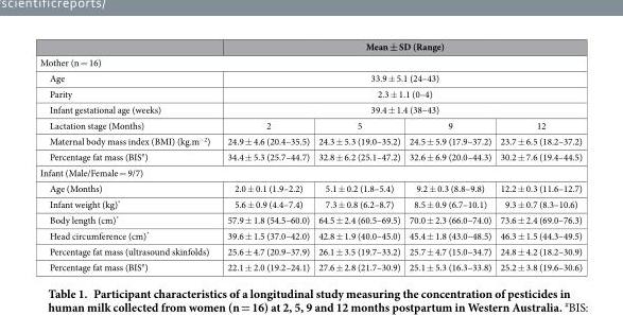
<table><thead><tr><td></td><td colspan="4">Mean ± SD (Range)</td></tr></thead><tbody><tr><td colspan="5">Mother (n = 16)</td></tr><tr><td>Age</td><td colspan="4">33.9 ± 5.1 (24–43)</td></tr><tr><td>Parity</td><td colspan="4">2.3 ± 1.1 (0–4)</td></tr><tr><td>Infant gestational age (weeks)</td><td colspan="4">39.4 ± 1.4 (38–43)</td></tr><tr><td>Lactation stage (Months)</td><td>2</td><td>5</td><td>9</td><td>12</td></tr><tr><td>Maternal body mass index (BMI) (kg.m<sup>−2</sup>)</td><td>24.9 ± 4.6 (20.4–35.5)</td><td>24.3 ± 5.3 (19.0–35.2)</td><td>24.5 ± 5.9 (17.9–37.2)</td><td>23.7 ± 6.5 (18.2–37.2)</td></tr><tr><td>Percentage fat mass (BIS#)</td><td>34.4 ± 5.3 (25.7–44.7)</td><td>32.8 ± 6.2 (25.1–47.2)</td><td>32.6 ± 6.9 (20.0–44.3)</td><td>30.2 ± 7.6 (19.4–44.5)</td></tr><tr><td colspan="5">Infant (Male/Female = 9/7)</td></tr><tr><td>Age (Months)</td><td>2.0 ± 0.1 (1.9–2.2)</td><td>5.1 ± 0.2 (1.8–5.4)</td><td>9.2 ± 0.3 (8.8–9.8)</td><td>12.2 ± 0.3 (11.6–12.7)</td></tr><tr><td>Infant weight (kg)*</td><td>5.6 ± 0.9 (4.4–7.4)</td><td>7.3 ± 0.8 (6.2–8.7)</td><td>8.5 ± 0.9 (6.7–10.1)</td><td>9.3 ± 0.7 (8.3–10.6)</td></tr><tr><td>Body length (cm)*</td><td>57.9 ± 1.8 (54.5–60.0)</td><td>64.5 ± 2.4 (60.5–69.5)</td><td>70.0 ± 2.3 (66.0–74.0)</td><td>73.6 ± 2.4 (69.0–76.3)</td></tr><tr><td>Head circumference (cm)*</td><td>39.6 ± 1.5 (37.0–42.0)</td><td>42.8 ± 1.9 (40.0–45.0)</td><td>45.4 ± 1.8 (43.0–48.5)</td><td>46.3 ± 1.5 (44.3–49.5)</td></tr><tr><td>Percentage fat mass (ultrasound skinfolds)</td><td>25.6 ± 4.7 (20.9–37.9)</td><td>26.1 ± 3.5 (19.7–33.2)</td><td>25.7 ± 4.7 (15.0–34.7)</td><td>24.8 ± 4.2 (18.2–30.9)</td></tr><tr><td>Percentage fat mass (BIS#)</td><td>22.1 ± 2.0 (19.2–24.1)</td><td>27.6 ± 2.8 (21.7–30.9)</td><td>25.1 ± 5.3 (16.3–33.8)</td><td>25.2 ± 3.8 (19.6–30.6)</td></tr></tbody></table>